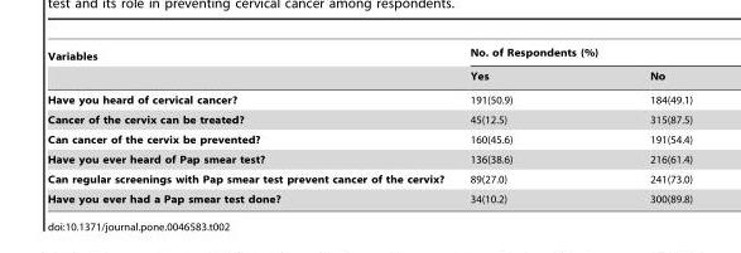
<table><thead><tr><td rowspan="2">Variables</td><td colspan="2">No. of Respondents (%)</td></tr><tr><td>Yes</td><td>No</td></tr></thead><tbody><tr><td>Have you heard of cervical cancer?</td><td>191(50.9)</td><td>184(49.1)</td></tr><tr><td>Cancer of the cervix can be treated?</td><td>45(12.5)</td><td>315(87.5)</td></tr><tr><td>Can cancer of the cervix be prevented?</td><td>160(45.6)</td><td>191(54.4)</td></tr><tr><td>Have you ever heard of Pap smear test?</td><td>136(38.6)</td><td>216(61.4)</td></tr><tr><td>Can regular screenings with Pap smear test prevent cancer of the cervix?</td><td>89(27.0)</td><td>241(73.0)</td></tr><tr><td>Have you ever had a Pap smear test done?</td><td>34(10.2)</td><td>300(89.8)</td></tr></tbody></table>